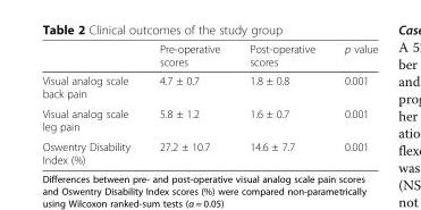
<table><thead><tr><td></td><td>Pre-operative scores</td><td>Post-operative scores</td><td>p value</td></tr></thead><tbody><tr><td>Visual analog scale back pain</td><td>4.7 ± 0.7</td><td>1.8 ± 0.8</td><td>0.001</td></tr><tr><td>Visual analog scale leg pain</td><td>5.8 ± 1.2</td><td>1.6 ± 0.7</td><td>0.001</td></tr><tr><td>Oswentry Disability Index (%)</td><td>27.2 ± 10.7</td><td>14.6 ± 7.7</td><td>0.001</td></tr></tbody></table>